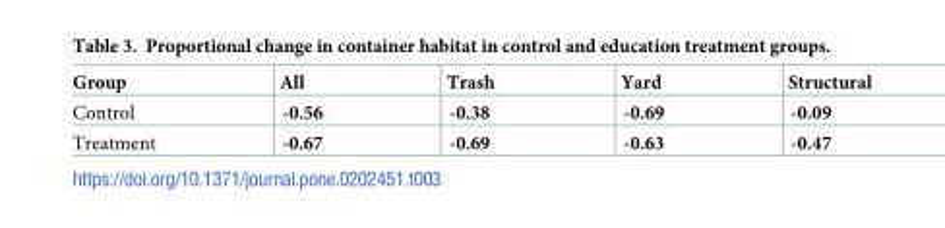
<table><thead><tr><td>Group</td><td>All</td><td>Trash</td><td>Yard</td><td>Structural</td></tr></thead><tbody><tr><td>Control</td><td>-0.56</td><td>-0.38</td><td>-0.69</td><td>-0.09</td></tr><tr><td>Treatment</td><td>-0.67</td><td>-0.69</td><td>-0.63</td><td>-0.47</td></tr></tbody></table>